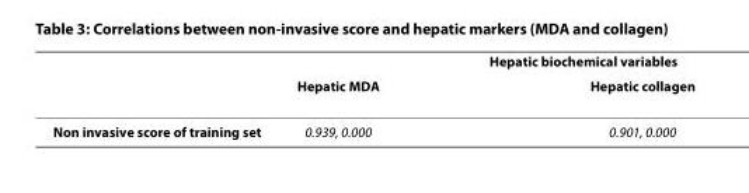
<table><thead><tr><td rowspan="2"></td><td colspan="2">Hepatic biochemical variables</td></tr><tr><td>Hepatic MDA</td><td>Hepatic collagen</td></tr></thead><tbody><tr><td>Non invasive score of training set</td><td>0.939, 0.000</td><td>0.901, 0.000</td></tr></tbody></table>